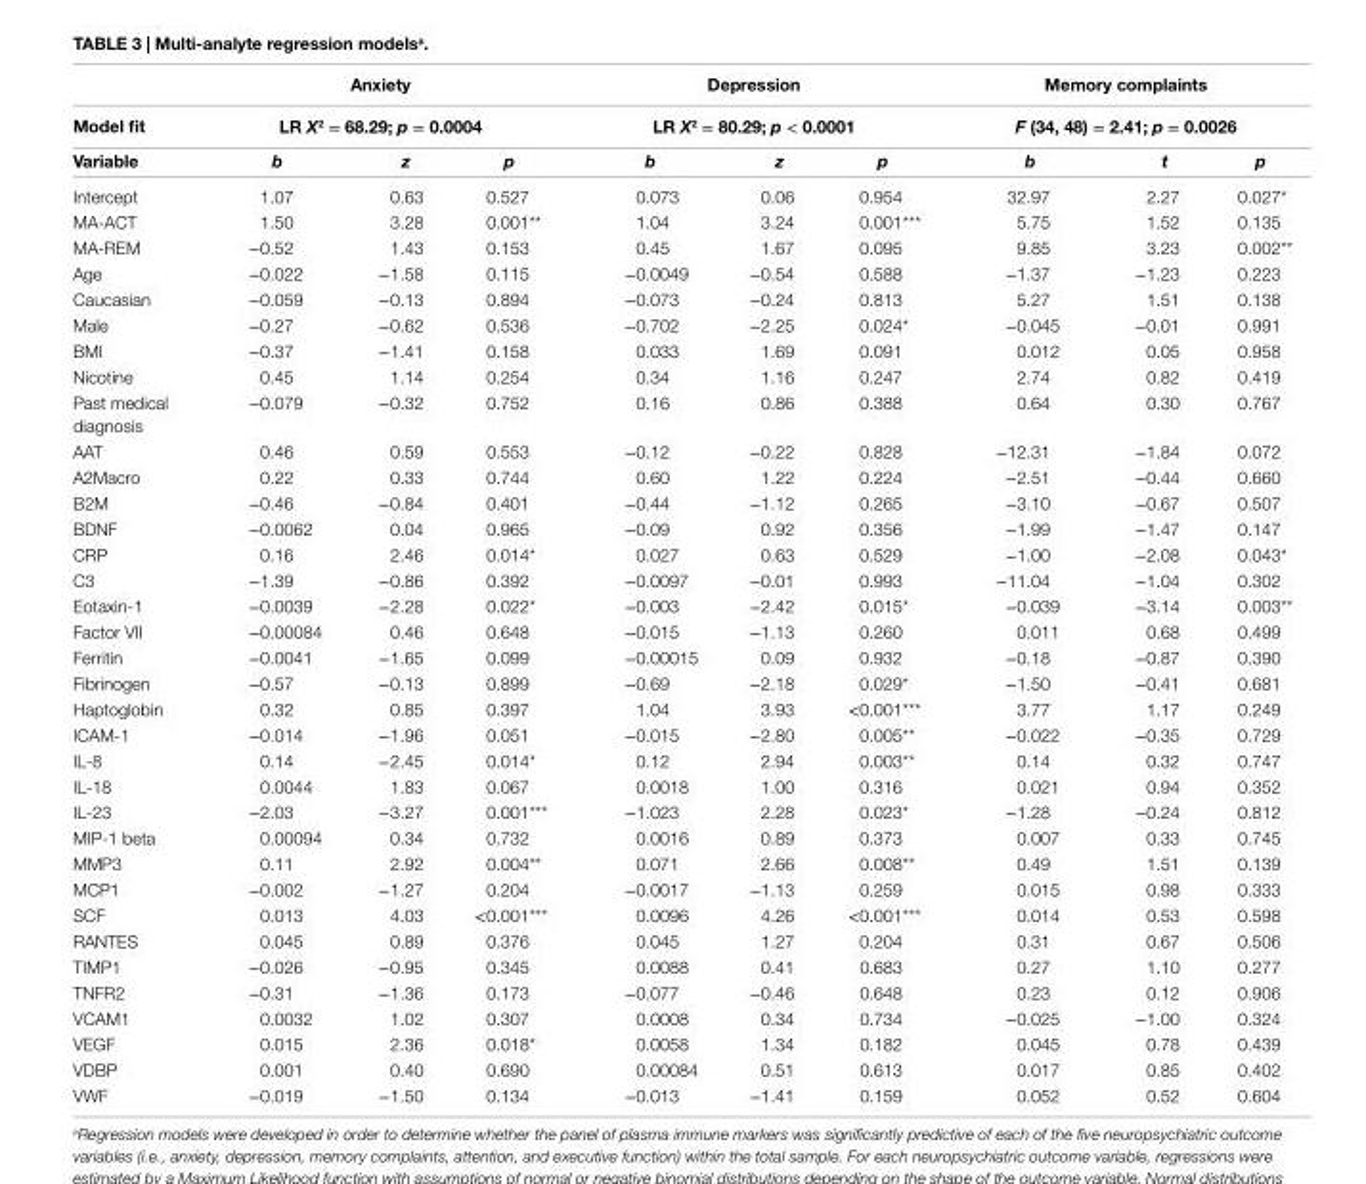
<table><thead><tr><td rowspan="3">Model fit Variable</td><td rowspan="2" colspan="3">anxiety lr X2 = 68.29; p = 0.0004</td><td rowspan="2" colspan="3">Depression lr X2 = 80.29; p &lt; 0.0001</td><td rowspan="2" colspan="3">Memory complaints F (34, 48) = 2.41; p = 0.0026</td></tr><tr></tr><tr><td>b</td><td>z</td><td>p</td><td>b</td><td>z</td><td>p</td><td>b</td><td>t</td><td>p</td></tr></thead><tbody><tr><td>Intercept</td><td>1.07</td><td>0.63</td><td>0.527</td><td>0.073</td><td>0.06</td><td>0.954</td><td>32.97</td><td>2.27</td><td>0.027*</td></tr><tr><td>MA-ACT</td><td>1.50</td><td>3.28</td><td>0.001**</td><td>1.04</td><td>3.24</td><td>0.001***</td><td>5.75</td><td>1.52</td><td>0.135</td></tr><tr><td>MA-REM</td><td>−0.52</td><td>1.43</td><td>0.153</td><td>0.45</td><td>1.67</td><td>0.095</td><td>9.85</td><td>3.23</td><td>0.002**</td></tr><tr><td>Age</td><td>−0.022</td><td>−1.58</td><td>0.115</td><td>−0.0049</td><td>−0.54</td><td>0.588</td><td>−1.37</td><td>−1.23</td><td>0.223</td></tr><tr><td>Caucasian</td><td>−0.059</td><td>−0.13</td><td>0.894</td><td>−0.073</td><td>−0.24</td><td>0.813</td><td>5.27</td><td>1.51</td><td>0.138</td></tr><tr><td>Male</td><td>−0.27</td><td>−0.62</td><td>0.536</td><td>−0.702</td><td>−2.25</td><td>0.024*</td><td>−0.045</td><td>−0.01</td><td>0.991</td></tr><tr><td>BMI</td><td>−0.37</td><td>−1.41</td><td>0.158</td><td>0.033</td><td>1.69</td><td>0.091</td><td>0.012</td><td>0.05</td><td>0.958</td></tr><tr><td>Nicotine</td><td>0.45</td><td>1.14</td><td>0.254</td><td>0.34</td><td>1.16</td><td>0.247</td><td>2.74</td><td>0.82</td><td>0.419</td></tr><tr><td>Past medical diagnosis</td><td>−0.079</td><td>−0.32</td><td>0.752</td><td>0.16</td><td>0.86</td><td>0.388</td><td>0.64</td><td>0.30</td><td>0.767</td></tr><tr><td>AAT</td><td>0.46</td><td>0.59</td><td>0.553</td><td>−0.12</td><td>−0.22</td><td>0.828</td><td>−12.31</td><td>−1.84</td><td>0.072</td></tr><tr><td>A2Macro</td><td>0.22</td><td>0.33</td><td>0.744</td><td>0.60</td><td>1.22</td><td>0.224</td><td>−2.51</td><td>−0.44</td><td>0.660</td></tr><tr><td>B2M</td><td>−0.46</td><td>−0.84</td><td>0.401</td><td>−0.44</td><td>−1.12</td><td>0.265</td><td>−3.10</td><td>−0.67</td><td>0.507</td></tr><tr><td>BDNF</td><td>−0.0062</td><td>0.04</td><td>0.965</td><td>−0.09</td><td>0.92</td><td>0.356</td><td>−1.99</td><td>−1.47</td><td>0.147</td></tr><tr><td>CRP</td><td>0.16</td><td>2.46</td><td>0.014*</td><td>0.027</td><td>0.63</td><td>0.529</td><td>−1.00</td><td>−2.08</td><td>0.043*</td></tr><tr><td>C3</td><td>−1.39</td><td>−0.86</td><td>0.392</td><td>−0.0097</td><td>−0.01</td><td>0.993</td><td>−11.04</td><td>−1.04</td><td>0.302</td></tr><tr><td>Eotaxin-1</td><td>−0.0039</td><td>−2.28</td><td>0.022*</td><td>−0.003</td><td>−2.42</td><td>0.015*</td><td>−0.039</td><td>−3.14</td><td>0.003**</td></tr><tr><td>Factor VII</td><td>−0.00084</td><td>0.46</td><td>0.648</td><td>−0.015</td><td>−1.13</td><td>0.260</td><td>0.011</td><td>0.68</td><td>0.499</td></tr><tr><td>Ferritin</td><td>−0.0041</td><td>−1.65</td><td>0.099</td><td>−0.00015</td><td>0.09</td><td>0.932</td><td>−0.18</td><td>−0.87</td><td>0.390</td></tr><tr><td>Fibrinogen</td><td>−0.57</td><td>−0.13</td><td>0.899</td><td>−0.69</td><td>−2.18</td><td>0.029*</td><td>−1.50</td><td>−0.41</td><td>0.681</td></tr><tr><td>Haptoglobin</td><td>0.32</td><td>0.85</td><td>0.397</td><td>1.04</td><td>3.93</td><td>&lt;0.001***</td><td>3.77</td><td>1.17</td><td>0.249</td></tr><tr><td>ICAM-1</td><td>−0.014</td><td>−1.96</td><td>0.051</td><td>−0.015</td><td>−2.80</td><td>0.005**</td><td>−0.022</td><td>−0.35</td><td>0.729</td></tr><tr><td>IL-8</td><td>0.14</td><td>−2.45</td><td>0.014*</td><td>0.12</td><td>2.94</td><td>0.003**</td><td>0.14</td><td>0.32</td><td>0.747</td></tr><tr><td>IL-18</td><td>0.0044</td><td>1.83</td><td>0.067</td><td>0.0018</td><td>1.00</td><td>0.316</td><td>0.021</td><td>0.94</td><td>0.352</td></tr><tr><td>IL-23</td><td>−2.03</td><td>−3.27</td><td>0.001***</td><td>−1.023</td><td>2.28</td><td>0.023*</td><td>−1.28</td><td>−0.24</td><td>0.812</td></tr><tr><td>MIP-1 beta</td><td>0.00094</td><td>0.34</td><td>0.732</td><td>0.0016</td><td>0.89</td><td>0.373</td><td>0.007</td><td>0.33</td><td>0.745</td></tr><tr><td>MMP3</td><td>0.11</td><td>2.92</td><td>0.004**</td><td>0.071</td><td>2.66</td><td>0.008**</td><td>0.49</td><td>1.51</td><td>0.139</td></tr><tr><td>MCP1</td><td>−0.002</td><td>−1.27</td><td>0.204</td><td>−0.0017</td><td>−1.13</td><td>0.259</td><td>0.015</td><td>0.98</td><td>0.333</td></tr><tr><td>SCF</td><td>0.013</td><td>4.03</td><td>&lt;0.001***</td><td>0.0096</td><td>4.26</td><td>&lt;0.001***</td><td>0.014</td><td>0.53</td><td>0.598</td></tr><tr><td>RANTES</td><td>0.045</td><td>0.89</td><td>0.376</td><td>0.045</td><td>1.27</td><td>0.204</td><td>0.31</td><td>0.67</td><td>0.506</td></tr><tr><td>TIMP1</td><td>−0.026</td><td>−0.95</td><td>0.345</td><td>0.0088</td><td>0.41</td><td>0.683</td><td>0.27</td><td>1.10</td><td>0.277</td></tr><tr><td>TNFR2</td><td>−0.31</td><td>−1.36</td><td>0.173</td><td>−0.077</td><td>−0.46</td><td>0.648</td><td>0.23</td><td>0.12</td><td>0.906</td></tr><tr><td>VCAM1</td><td>0.0032</td><td>1.02</td><td>0.307</td><td>0.0008</td><td>0.34</td><td>0.734</td><td>−0.025</td><td>−1.00</td><td>0.324</td></tr><tr><td>VEGF</td><td>0.015</td><td>2.36</td><td>0.018*</td><td>0.0058</td><td>1.34</td><td>0.182</td><td>0.045</td><td>0.78</td><td>0.439</td></tr><tr><td>VDBP</td><td>0.001</td><td>0.40</td><td>0.690</td><td>0.00084</td><td>0.51</td><td>0.613</td><td>0.017</td><td>0.85</td><td>0.402</td></tr><tr><td>VWF</td><td>−0.019</td><td>−1.50</td><td>0.134</td><td>−0.013</td><td>−1.41</td><td>0.159</td><td>0.052</td><td>0.52</td><td>0.604</td></tr></tbody></table>